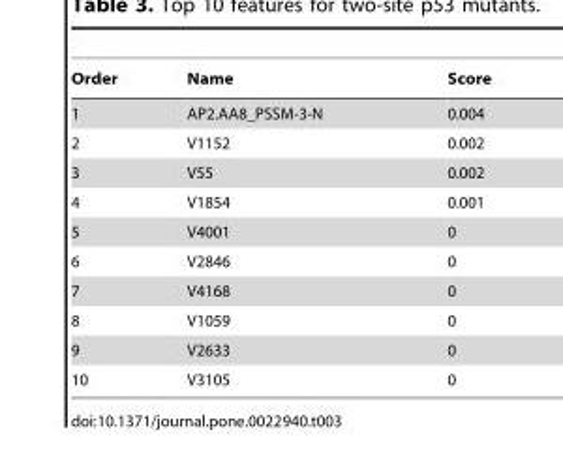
<table><thead><tr><td>Order</td><td>Name</td><td>Score</td></tr></thead><tbody><tr><td>1</td><td>AP2.AA8_PSSM-3-N</td><td>0.004</td></tr><tr><td>2</td><td>V1152</td><td>0.002</td></tr><tr><td>3</td><td>V55</td><td>0.002</td></tr><tr><td>4</td><td>V1854</td><td>0.001</td></tr><tr><td>5</td><td>V4001</td><td>0</td></tr><tr><td>6</td><td>V2846</td><td>0</td></tr><tr><td>7</td><td>V4168</td><td>0</td></tr><tr><td>8</td><td>V1059</td><td>0</td></tr><tr><td>9</td><td>V2633</td><td>0</td></tr><tr><td>10</td><td>V3105</td><td>0</td></tr></tbody></table>